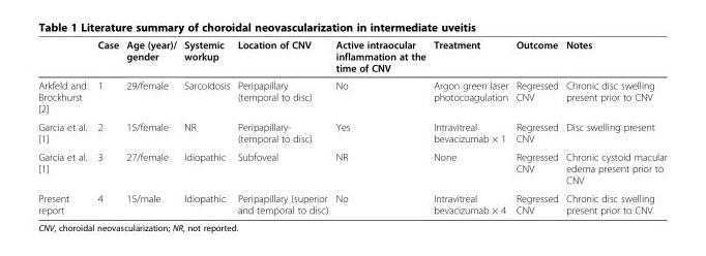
<table><thead><tr><td></td><td>Case</td><td>Age (year)/ gender</td><td>Systemic workup</td><td>Location of CNV</td><td>Active intraocular inflammation at the time of CNV</td><td>Treatment</td><td>Outcome</td><td>Notes</td></tr></thead><tbody><tr><td>Arkfeld and Brockhurst [2]</td><td>1</td><td>29/female</td><td>Sarcoidosis</td><td>Peripapillary (temporal to disc)</td><td>No</td><td>Argon green laser photocoagulation</td><td>Regressed CNV</td><td>Chronic disc swelling present prior to CNV</td></tr><tr><td>Garcia et al. [1]</td><td>2</td><td>15/female</td><td>NR</td><td>Peripapillary- (temporal to disc)</td><td>Yes</td><td>Intravitreal bevacizumab × 1</td><td>Regressed CNV</td><td>Disc swelling present</td></tr><tr><td>Garcia et al. [1]</td><td>3</td><td>27/female</td><td>Idiopathic</td><td>Subfoveal</td><td>NR</td><td>None</td><td>Regressed CNV</td><td>Chronic cystoid macular edema present prior to CNV</td></tr><tr><td>Present report</td><td>4</td><td>15/male</td><td>Idiopathic</td><td>Peripapillary (superior and temporal to disc)</td><td>No</td><td>Intravitreal bevacizumab × 4</td><td>Regressed CNV</td><td>Chronic disc swelling present prior to CNV</td></tr></tbody></table>